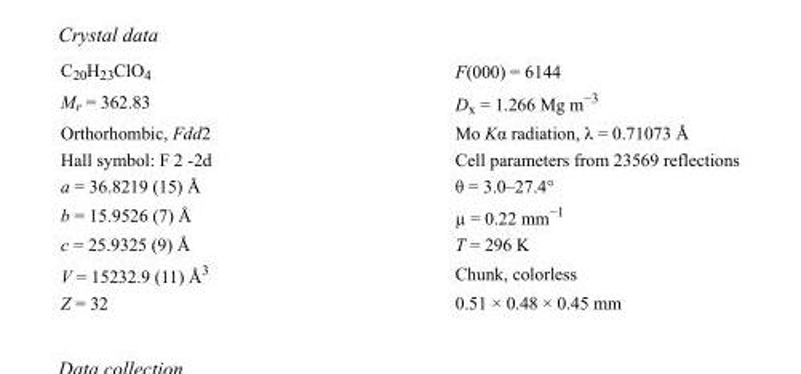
<table><tbody><tr><td>C<sub>20</sub>H<sub>23</sub>ClO<sub>4</sub></td><td>F(000) = 6144</td></tr><tr><td>M<sub>r</sub> = 362.83</td><td>D<sub>x</sub> = 1.266 Mg m<sup>−3</sup></td></tr><tr><td>Orthorhombic, Fdd2</td><td>Mo Kα radiation, λ = 0.71073 Å</td></tr><tr><td>Hall symbol: F 2 -2d</td><td>Cell parameters from 23569 reflections</td></tr><tr><td>a = 36.8219 (15) Å</td><td>θ = 3.0–27.4°</td></tr><tr><td>b = 15.9526 (7) Å</td><td>µ = 0.22 mm<sup>−1</sup></td></tr><tr><td>c = 25.9325 (9) Å</td><td>T = 296 K</td></tr><tr><td>V = 15232.9 (11) Å<sup>3</sup></td><td>Chunk, colorless</td></tr><tr><td>Z = 32</td><td>0.51 × 0.48 × 0.45 mm</td></tr></tbody></table>